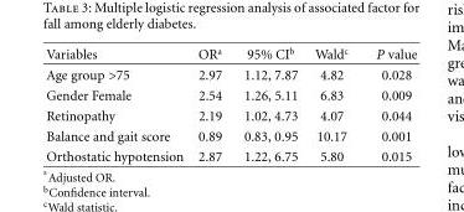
<table><thead><tr><td>Variables</td><td>OR<sup>a</sup></td><td>95% CI<sup>b</sup></td><td>Wald<sup>c</sup></td><td>P value</td></tr></thead><tbody><tr><td>Age group &gt;75</td><td>2.97</td><td>1.12, 7.87</td><td>4.82</td><td>0.028</td></tr><tr><td>Gender Female</td><td>2.54</td><td>1.26, 5.11</td><td>6.83</td><td>0.009</td></tr><tr><td>Retinopathy</td><td>2.19</td><td>1.02, 4.73</td><td>4.07</td><td>0.044</td></tr><tr><td>Balance and gait score</td><td>0.89</td><td>0.83, 0.95</td><td>10.17</td><td>0.001</td></tr><tr><td>Orthostatic hypotension</td><td>2.87</td><td>1.22, 6.75</td><td>5.80</td><td>0.015</td></tr></tbody></table>